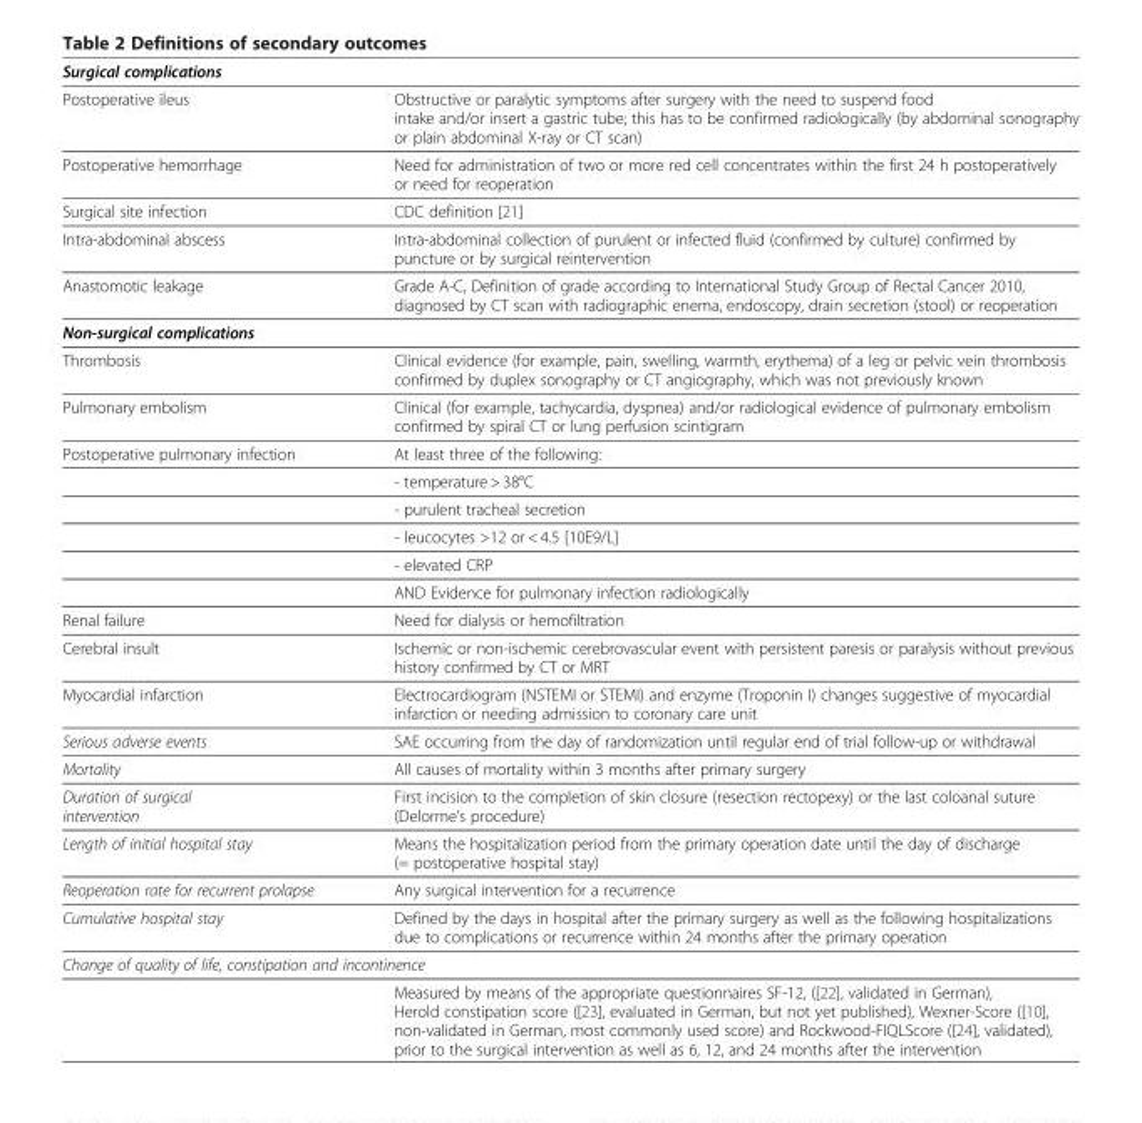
<table><tbody><tr><td colspan="2">Surgical complications</td></tr><tr><td>Postoperative ileus</td><td>Obstructive or paralytic symptoms after surgery with the need to suspend food intake and/or insert a gastric tube; this has to be confirmed radiologically (by abdominal sonography or plain abdominal X-ray or CT scan)</td></tr><tr><td>Postoperative hemorrhage</td><td>Need for administration of two or more red cell concentrates within the first 24 h postoperatively or need for reoperation</td></tr><tr><td>Surgical site infection</td><td>CDC definition [21]</td></tr><tr><td>Intra-abdominal abscess</td><td>Intra-abdominal collection of purulent or infected fluid (confirmed by culture) confirmed by puncture or by surgical reintervention</td></tr><tr><td>Anastomotic leakage</td><td>Grade A-C, Definition of grade according to International Study Group of Rectal Cancer 2010, diagnosed by CT scan with radiographic enema, endoscopy, drain secretion (stool) or reoperation</td></tr><tr><td colspan="2">Non-surgical complications</td></tr><tr><td>Thrombosis</td><td>Clinical evidence (for example, pain, swelling, warmth, erythema) of a leg or pelvic vein thrombosis confirmed by duplex sonography or CT angiography, which was not previously known</td></tr><tr><td>Pulmonary embolism</td><td>Clinical (for example, tachycardia, dyspnea) and/or radiological evidence of pulmonary embolism confirmed by spiral CT or lung perfusion scintigram</td></tr><tr><td rowspan="6">Postoperative pulmonary infection</td><td>At least three of the following:</td></tr><tr><td>- temperature &gt; 38°C</td></tr><tr><td>- purulent tracheal secretion</td></tr><tr><td>- leucocytes &gt;12 or &lt; 4.5 [10E9/L]</td></tr><tr><td>- elevated CRP</td></tr><tr><td>AND Evidence for pulmonary infection radiologically</td></tr><tr><td>Renal failure</td><td>Need for dialysis or hemofiltration</td></tr><tr><td>Cerebral insult</td><td>Ischemic or non-ischemic cerebrovascular event with persistent paresis or paralysis without previous history confirmed by CT or MRT</td></tr><tr><td>Myocardial infarction</td><td>Electrocardiogram (NSTEMI or STEMI) and enzyme (Troponin I) changes suggestive of myocardial infarction or needing admission to coronary care unit</td></tr><tr><td>Serious adverse events</td><td>SAE occurring from the day of randomization until regular end of trial follow-up or withdrawal</td></tr><tr><td>Mortality</td><td>All causes of mortality within 3 months after primary surgery</td></tr><tr><td>Duration of surgical intervention</td><td>First incision to the completion of skin closure (resection rectopexy) or the last coloanal suture (Delorme’s procedure)</td></tr><tr><td>Length of initial hospital stay</td><td>Means the hospitalization period from the primary operation date until the day of discharge (= postoperative hospital stay)</td></tr><tr><td>Reoperation rate for recurrent prolapse</td><td>Any surgical intervention for a recurrence</td></tr><tr><td>Cumulative hospital stay</td><td>Defined by the days in hospital after the primary surgery as well as the following hospitalizations due to complications or recurrence within 24 months after the primary operation</td></tr><tr><td colspan="2">Change of quality of life, constipation and incontinence</td></tr><tr><td></td><td>Measured by means of the appropriate questionnaires SF-12, ([22], validated in German), Herold constipation score ([23], evaluated in German, but not yet published), Wexner-Score ([10], non-validated in German, most commonly used score) and Rockwood-FIQLScore ([24], validated), prior to the surgical intervention as well as 6, 12, and 24 months after the intervention</td></tr></tbody></table>